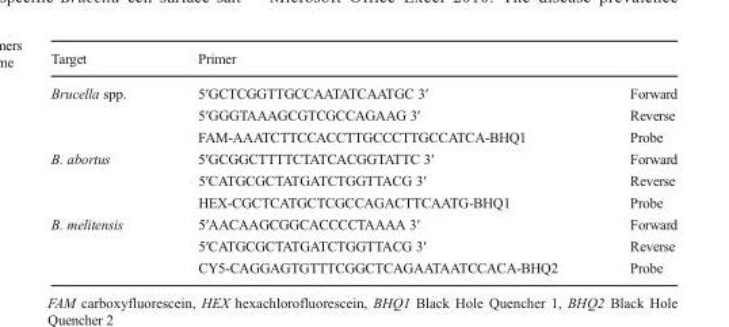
<table><thead><tr><td>Target</td><td>Primer</td><td></td></tr></thead><tbody><tr><td rowspan="3">Brucella spp.</td><td>5′GCTCGGTTGCCAATATCAATGC 3′</td><td>Forward</td></tr><tr><td>5′GGGTAAAGCGTCGCCAGAAG 3′</td><td>Reverse</td></tr><tr><td>FAM-AAATCTTCCACCTTGCCCTTGCCATCA-BHQ1</td><td>Probe</td></tr><tr><td rowspan="3">B. abortus</td><td>5′GCGGCTTTTCTATCACGGTATTC 3′</td><td>Forward</td></tr><tr><td>5′CATGCGCTATGATCTGGTTACG 3′</td><td>Reverse</td></tr><tr><td>HEX-CGCTCATGCTCGCCAGACTTCAATG-BHQ1</td><td>Probe</td></tr><tr><td rowspan="3">B. melitensis</td><td>5′AACAAGCGGCACCCCTAAAA 3′</td><td>Forward</td></tr><tr><td>5′CATGCGCTATGATCTGGTTACG 3′</td><td>Reverse</td></tr><tr><td>CY5-CAGGAGTGTTTCGGCTCAGAATAATCCACA-BHQ2</td><td>Probe</td></tr></tbody></table>